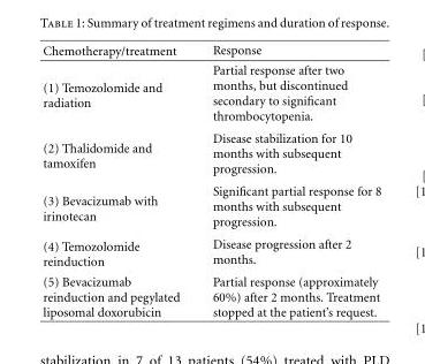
<table><thead><tr><td>Chemotherapy/treatment</td><td>Response</td></tr></thead><tbody><tr><td>(1) Temozolomide and radiation</td><td>Partial response after two months, but discontinued secondary to significant thrombocytopenia.</td></tr><tr><td>(2) Thalidomide and tamoxifen</td><td>Disease stabilization for 10 months with subsequent progression.</td></tr><tr><td>(3) Bevacizumab with irinotecan</td><td>Significant partial response for 8 months with subsequent progression.</td></tr><tr><td>(4) Temozolomide reinduction</td><td>Disease progression after 2 months.</td></tr><tr><td>(5) Bevacizumab reinduction and pegylated liposomal doxorubicin</td><td>Partial response (approximately 60%) after 2 months. Treatment stopped at the patient’s request.</td></tr></tbody></table>